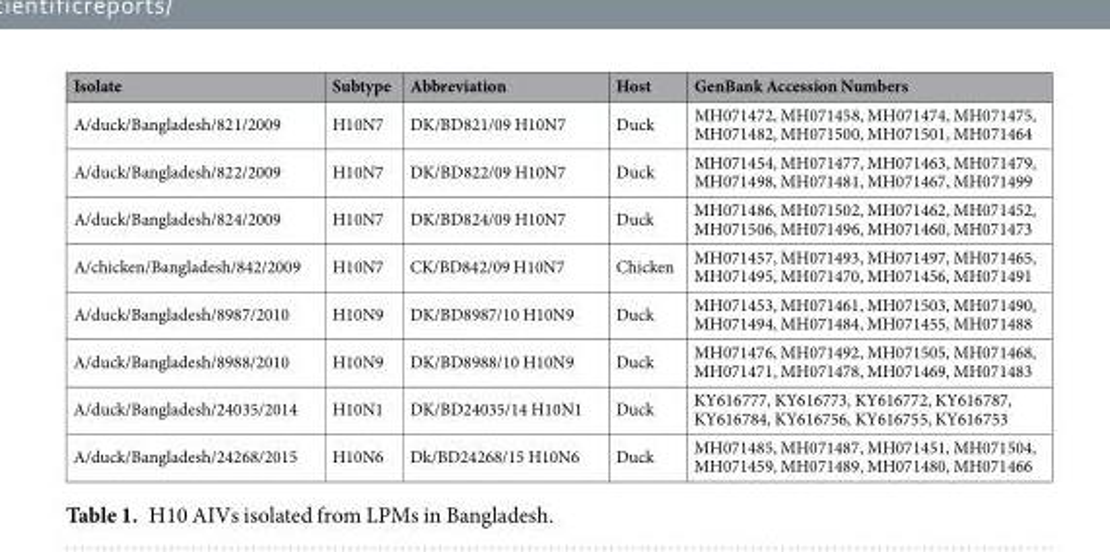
<table><thead><tr><td>Isolate</td><td>Subtype</td><td>Abbreviation</td><td>Host</td><td>GenBank Accession Numbers</td></tr></thead><tbody><tr><td>A/duck/Bangladesh/821/2009</td><td>H10N7</td><td>DK/BD821/09 H10N7</td><td>Duck</td><td>MH071472, MH071458, MH071474, MH071475, MH071482, MH071500, MH071501, MH071464</td></tr><tr><td>A/duck/Bangladesh/822/2009</td><td>H10N7</td><td>DK/BD822/09 H10N7</td><td>Duck</td><td>MH071454, MH071477, MH071463, MH071479, MH071498, MH071481, MH071467, MH071499</td></tr><tr><td>A/duck/Bangladesh/824/2009</td><td>H10N7</td><td>DK/BD824/09 H10N7</td><td>Duck</td><td>MH071486, MH071502, MH071462, MH071452, MH071506, MH071496, MH071460, MH071473</td></tr><tr><td>A/chicken/Bangladesh/842/2009</td><td>H10N7</td><td>CK/BD842/09 H10N7</td><td>Chicken</td><td>MH071457, MH071493, MH071497, MH071465, MH071495, MH071470, MH071456, MH071491</td></tr><tr><td>A/duck/Bangladesh/8987/2010</td><td>H10N9</td><td>DK/BD8987/10 H10N9</td><td>Duck</td><td>MH071453, MH071461, MH071503, MH071490, MH071494, MH071484, MH071455, MH071488</td></tr><tr><td>A/duck/Bangladesh/8988/2010</td><td>H10N9</td><td>DK/BD8988/10 H10N9</td><td>Duck</td><td>MH071476, MH071492, MH071505, MH071468, MH071471, MH071478, MH071469, MH071483</td></tr><tr><td>A/duck/Bangladesh/24035/2014</td><td>H10N1</td><td>DK/BD24035/14 H10N1</td><td>Duck</td><td>KY616777, KY616773, KY616772, KY616787, KY616784, KY616756, KY616755, KY616753</td></tr><tr><td>A/duck/Bangladesh/24268/2015</td><td>H10N6</td><td>Dk/BD24268/15 H10N6</td><td>Duck</td><td>MH071485, MH071487, MH071451, MH071504, MH071459, MH071489, MH071480, MH071466</td></tr></tbody></table>